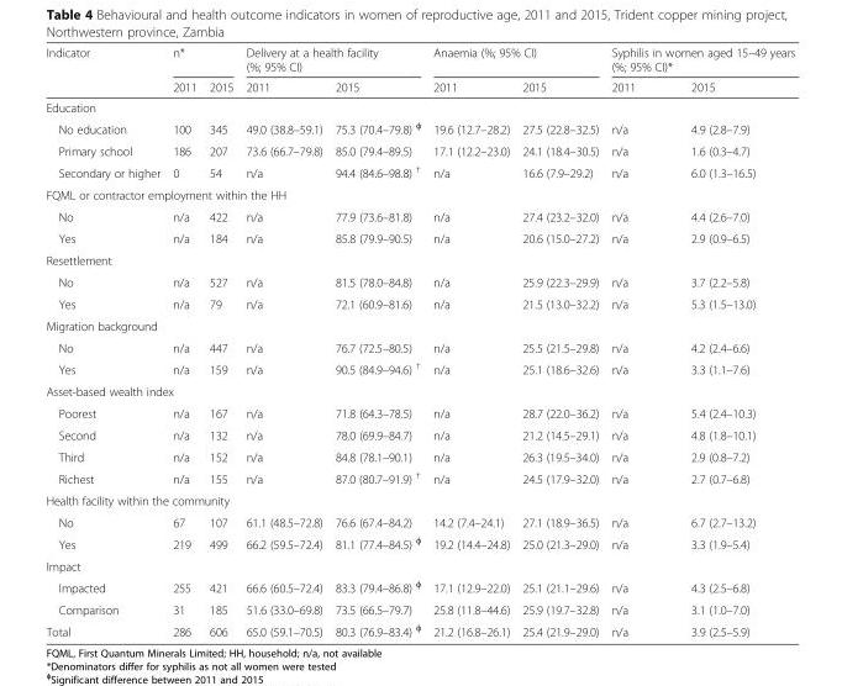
<table><thead><tr><td rowspan="2">Indicator</td><td colspan="2">n*</td><td colspan="2">Delivery at a health facility (%; 95% CI)</td><td colspan="2">Anaemia (%; 95% CI)</td><td colspan="2">Syphilis in women aged 15–49 years (%; 95% CI)*</td></tr><tr><td>2011</td><td>2015</td><td>2011</td><td>2015</td><td>2011</td><td>2015</td><td>2011</td><td>2015</td></tr></thead><tbody><tr><td colspan="9">Education</td></tr><tr><td>No education</td><td>100</td><td>345</td><td>49.0 (38.8–59.1)</td><td>75.3 (70.4–79.8) <sup>ɸ</sup></td><td>19.6 (12.7–28.2)</td><td>27.5 (22.8–32.5)</td><td>n/a</td><td>4.9 (2.8–7.9)</td></tr><tr><td>Primary school</td><td>186</td><td>207</td><td>73.6 (66.7–79.8)</td><td>85.0 (79.4–89.5)</td><td>17.1 (12.2–23.0)</td><td>24.1 (18.4–30.5)</td><td>n/a</td><td>1.6 (0.3–4.7)</td></tr><tr><td>Secondary or higher</td><td>0</td><td>54</td><td>n/a</td><td>94.4 (84.6–98.8) <sup>†</sup></td><td>n/a</td><td>16.6 (7.9–29.2)</td><td>n/a</td><td>6.0 (1.3–16.5)</td></tr><tr><td colspan="9">FQML or contractor employment within the HH</td></tr><tr><td>No</td><td>n/a</td><td>422</td><td>n/a</td><td>77.9 (73.6–81.8)</td><td>n/a</td><td>27.4 (23.2–32.0)</td><td>n/a</td><td>4.4 (2.6–7.0)</td></tr><tr><td>Yes</td><td>n/a</td><td>184</td><td>n/a</td><td>85.8 (79.9–90.5)</td><td>n/a</td><td>20.6 (15.0–27.2)</td><td>n/a</td><td>2.9 (0.9–6.5)</td></tr><tr><td colspan="9">Resettlement</td></tr><tr><td>No</td><td>n/a</td><td>527</td><td>n/a</td><td>81.5 (78.0–84.8)</td><td>n/a</td><td>25.9 (22.3–29.9)</td><td>n/a</td><td>3.7 (2.2–5.8)</td></tr><tr><td>Yes</td><td>n/a</td><td>79</td><td>n/a</td><td>72.1 (60.9–81.6)</td><td>n/a</td><td>21.5 (13.0–32.2)</td><td>n/a</td><td>5.3 (1.5–13.0)</td></tr><tr><td colspan="9">Migration background</td></tr><tr><td>No</td><td>n/a</td><td>447</td><td>n/a</td><td>76.7 (72.5–80.5)</td><td>n/a</td><td>25.5 (21.5–29.8)</td><td>n/a</td><td>4.2 (2.4–6.6)</td></tr><tr><td>Yes</td><td>n/a</td><td>159</td><td>n/a</td><td>90.5 (84.9–94.6) <sup>†</sup></td><td>n/a</td><td>25.1 (18.6–32.6)</td><td>n/a</td><td>3.3 (1.1–7.6)</td></tr><tr><td colspan="9">Asset-based wealth index</td></tr><tr><td>Poorest</td><td>n/a</td><td>167</td><td>n/a</td><td>71.8 (64.3–78.5)</td><td>n/a</td><td>28.7 (22.0–36.2)</td><td>n/a</td><td>5.4 (2.4–10.3)</td></tr><tr><td>Second</td><td>n/a</td><td>132</td><td>n/a</td><td>78.0 (69.9–84.7)</td><td>n/a</td><td>21.2 (14.5–29.1)</td><td>n/a</td><td>4.8 (1.8–10.1)</td></tr><tr><td>Third</td><td>n/a</td><td>152</td><td>n/a</td><td>84.8 (78.1–90.1)</td><td>n/a</td><td>26.3 (19.5–34.0)</td><td>n/a</td><td>2.9 (0.8–7.2)</td></tr><tr><td>Richest</td><td>n/a</td><td>155</td><td>n/a</td><td>87.0 (80.7–91.9) <sup>†</sup></td><td>n/a</td><td>24.5 (17.9–32.0)</td><td>n/a</td><td>2.7 (0.7–6.8)</td></tr><tr><td colspan="9">Health facility within the community</td></tr><tr><td>No</td><td>67</td><td>107</td><td>61.1 (48.5–72.8)</td><td>76.6 (67.4–84.2)</td><td>14.2 (7.4–24.1)</td><td>27.1 (18.9–36.5)</td><td>n/a</td><td>6.7 (2.7–13.2)</td></tr><tr><td>Yes</td><td>219</td><td>499</td><td>66.2 (59.5–72.4)</td><td>81.1 (77.4–84.5) <sup>ɸ</sup></td><td>19.2 (14.4–24.8)</td><td>25.0 (21.3–29.0)</td><td>n/a</td><td>3.3 (1.9–5.4)</td></tr><tr><td colspan="9">Impact</td></tr><tr><td>Impacted</td><td>255</td><td>421</td><td>66.6 (60.5–72.4)</td><td>83.3 (79.4–86.8) <sup>ɸ</sup></td><td>17.1 (12.9–22.0)</td><td>25.1 (21.1–29.6)</td><td>n/a</td><td>4.3 (2.5–6.8)</td></tr><tr><td>Comparison</td><td>31</td><td>185</td><td>51.6 (33.0–69.8)</td><td>73.5 (66.5–79.7)</td><td>25.8 (11.8–44.6)</td><td>25.9 (19.7–32.8)</td><td>n/a</td><td>3.1 (1.0–7.0)</td></tr><tr><td>Total</td><td>286</td><td>606</td><td>65.0 (59.1–70.5)</td><td>80.3 (76.9–83.4) <sup>ɸ</sup></td><td>21.2 (16.8–26.1)</td><td>25.4 (21.9–29.0)</td><td>n/a</td><td>3.9 (2.5–5.9)</td></tr></tbody></table>